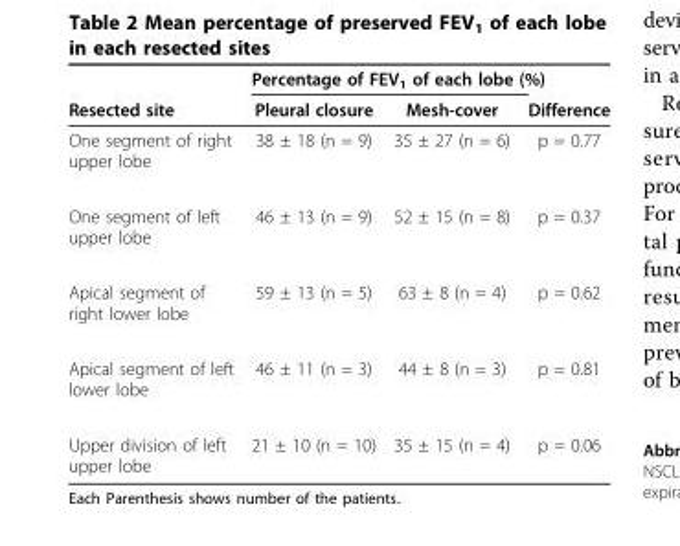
<table><thead><tr><td rowspan="2">Resected site</td><td colspan="3">Percentage of FEV<sub>1</sub> of each lobe (%)</td></tr><tr><td>Pleural closure</td><td>Mesh-cover</td><td>Difference</td></tr></thead><tbody><tr><td>One segment of right upper lobe</td><td>38 ± 18 (n = 9)</td><td>35 ± 27 (n = 6)</td><td>p = 0.77</td></tr><tr><td>One segment of left upper lobe</td><td>46 ± 13 (n = 9)</td><td>52 ± 15 (n = 8)</td><td>p = 0.37</td></tr><tr><td>Apical segment of right lower lobe</td><td>59 ± 13 (n = 5)</td><td>63 ± 8 (n = 4)</td><td>p = 0.62</td></tr><tr><td>Apical segment of left lower lobe</td><td>46 ± 11 (n = 3)</td><td>44 ± 8 (n = 3)</td><td>p = 0.81</td></tr><tr><td>Upper division of left upper lobe</td><td>21 ± 10 (n = 10)</td><td>35 ± 15 (n = 4)</td><td>p = 0.06</td></tr></tbody></table>